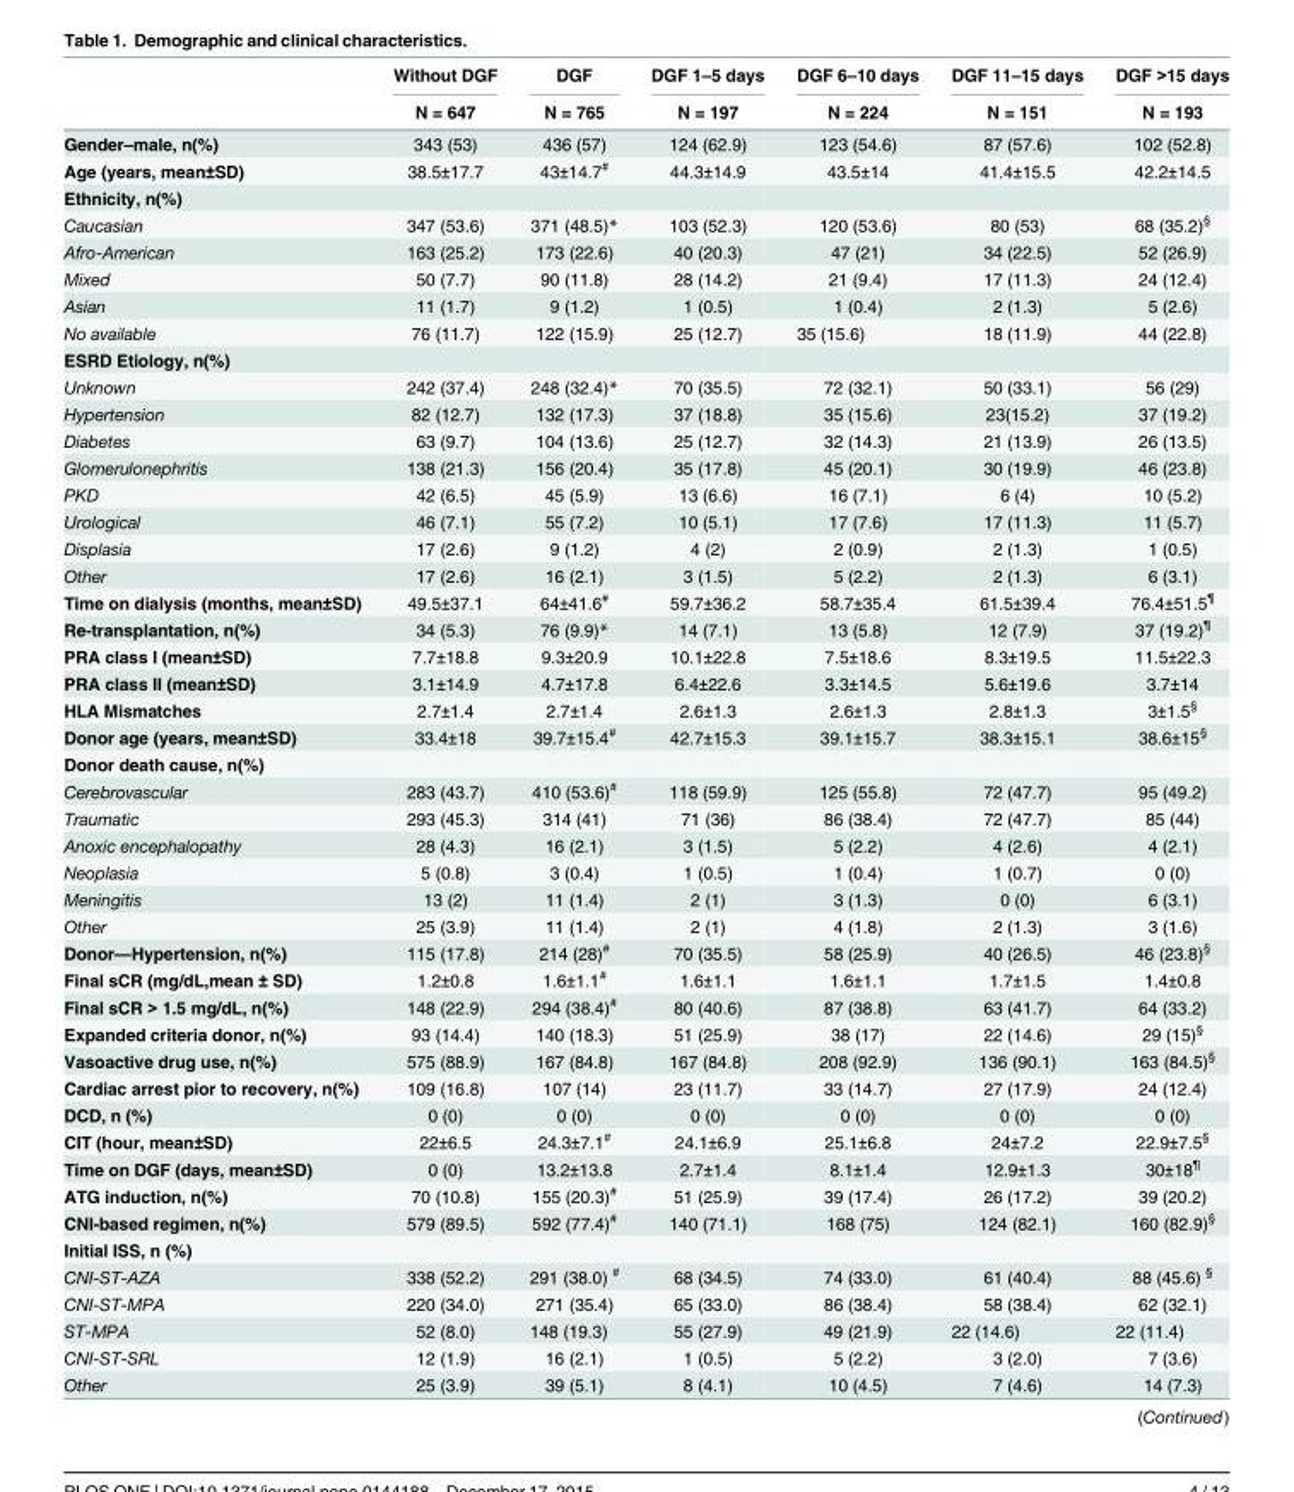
<table><thead><tr><td rowspan="2"></td><td rowspan="2">Without DGF N = 647</td><td rowspan="2">DGF N = 765</td><td rowspan="2">DGF 1–5 days N = 197</td><td rowspan="2">DGF 6–10 days N = 224</td><td rowspan="2">DGF 11–15 days N = 151</td><td rowspan="2">DGF &gt;15 days N = 193</td></tr><tr></tr></thead><tbody><tr><td>Gender–male, n(%)</td><td>343 (53)</td><td>436 (57)</td><td>124 (62.9)</td><td>123 (54.6)</td><td>87 (57.6)</td><td>102 (52.8)</td></tr><tr><td>Age (years, mean±SD)</td><td>38.5±17.7</td><td>43±14.7<sup>#</sup></td><td>44.3±14.9</td><td>43.5±14</td><td>41.4±15.5</td><td>42.2±14.5</td></tr><tr><td colspan="7">Ethnicity, n(%)</td></tr><tr><td>Caucasian</td><td>347 (53.6)</td><td>371 (48.5)*</td><td>103 (52.3)</td><td>120 (53.6)</td><td>80 (53)</td><td>68 (35.2)<sup>§</sup></td></tr><tr><td>Afro-American</td><td>163 (25.2)</td><td>173 (22.6)</td><td>40 (20.3)</td><td>47 (21)</td><td>34 (22.5)</td><td>52 (26.9)</td></tr><tr><td>Mixed</td><td>50 (7.7)</td><td>90 (11.8)</td><td>28 (14.2)</td><td>21 (9.4)</td><td>17 (11.3)</td><td>24 (12.4)</td></tr><tr><td>Asian</td><td>11 (1.7)</td><td>9 (1.2)</td><td>1 (0.5)</td><td>1 (0.4)</td><td>2 (1.3)</td><td>5 (2.6)</td></tr><tr><td>No available</td><td>76 (11.7)</td><td>122 (15.9)</td><td>25 (12.7)</td><td>35 (15.6)</td><td>18 (11.9)</td><td>44 (22.8)</td></tr><tr><td colspan="7">ESRD Etiology, n(%)</td></tr><tr><td>Unknown</td><td>242 (37.4)</td><td>248 (32.4)*</td><td>70 (35.5)</td><td>72 (32.1)</td><td>50 (33.1)</td><td>56 (29)</td></tr><tr><td>Hypertension</td><td>82 (12.7)</td><td>132 (17.3)</td><td>37 (18.8)</td><td>35 (15.6)</td><td>23(15.2)</td><td>37 (19.2)</td></tr><tr><td>Diabetes</td><td>63 (9.7)</td><td>104 (13.6)</td><td>25 (12.7)</td><td>32 (14.3)</td><td>21 (13.9)</td><td>26 (13.5)</td></tr><tr><td>Glomerulonephritis</td><td>138 (21.3)</td><td>156 (20.4)</td><td>35 (17.8)</td><td>45 (20.1)</td><td>30 (19.9)</td><td>46 (23.8)</td></tr><tr><td>PKD</td><td>42 (6.5)</td><td>45 (5.9)</td><td>13 (6.6)</td><td>16 (7.1)</td><td>6 (4)</td><td>10 (5.2)</td></tr><tr><td>Urological</td><td>46 (7.1)</td><td>55 (7.2)</td><td>10 (5.1)</td><td>17 (7.6)</td><td>17 (11.3)</td><td>11 (5.7)</td></tr><tr><td>Displasia</td><td>17 (2.6)</td><td>9 (1.2)</td><td>4 (2)</td><td>2 (0.9)</td><td>2 (1.3)</td><td>1 (0.5)</td></tr><tr><td>Other</td><td>17 (2.6)</td><td>16 (2.1)</td><td>3 (1.5)</td><td>5 (2.2)</td><td>2 (1.3)</td><td>6 (3.1)</td></tr><tr><td>Time on dialysis (months, mean±SD)</td><td>49.5±37.1</td><td>64±41.6<sup>#</sup></td><td>59.7±36.2</td><td>58.7±35.4</td><td>61.5±39.4</td><td>76.4±51.5<sup>¶</sup></td></tr><tr><td>Re-transplantation, n(%)</td><td>34 (5.3)</td><td>76 (9.9)*</td><td>14 (7.1)</td><td>13 (5.8)</td><td>12 (7.9)</td><td>37 (19.2)<sup>¶</sup></td></tr><tr><td>PRA class I (mean±SD)</td><td>7.7±18.8</td><td>9.3±20.9</td><td>10.1±22.8</td><td>7.5±18.6</td><td>8.3±19.5</td><td>11.5±22.3</td></tr><tr><td>PRA class II (mean±SD)</td><td>3.1±14.9</td><td>4.7±17.8</td><td>6.4±22.6</td><td>3.3±14.5</td><td>5.6±19.6</td><td>3.7±14</td></tr><tr><td>HLA Mismatches</td><td>2.7±1.4</td><td>2.7±1.4</td><td>2.6±1.3</td><td>2.6±1.3</td><td>2.8±1.3</td><td>3±1.5<sup>§</sup></td></tr><tr><td>Donor age (years, mean±SD)</td><td>33.4±18</td><td>39.7±15.4<sup>#</sup></td><td>42.7±15.3</td><td>39.1±15.7</td><td>38.3±15.1</td><td>38.6±15<sup>§</sup></td></tr><tr><td colspan="7">Donor death cause, n(%)</td></tr><tr><td>Cerebrovascular</td><td>283 (43.7)</td><td>410 (53.6)<sup>#</sup></td><td>118 (59.9)</td><td>125 (55.8)</td><td>72 (47.7)</td><td>95 (49.2)</td></tr><tr><td>Traumatic</td><td>293 (45.3)</td><td>314 (41)</td><td>71 (36)</td><td>86 (38.4)</td><td>72 (47.7)</td><td>85 (44)</td></tr><tr><td>Anoxic encephalopathy</td><td>28 (4.3)</td><td>16 (2.1)</td><td>3 (1.5)</td><td>5 (2.2)</td><td>4 (2.6)</td><td>4 (2.1)</td></tr><tr><td>Neoplasia</td><td>5 (0.8)</td><td>3 (0.4)</td><td>1 (0.5)</td><td>1 (0.4)</td><td>1 (0.7)</td><td>0 (0)</td></tr><tr><td>Meningitis</td><td>13 (2)</td><td>11 (1.4)</td><td>2 (1)</td><td>3 (1.3)</td><td>0 (0)</td><td>6 (3.1)</td></tr><tr><td>Other</td><td>25 (3.9)</td><td>11 (1.4)</td><td>2 (1)</td><td>4 (1.8)</td><td>2 (1.3)</td><td>3 (1.6)</td></tr><tr><td>Donor—Hypertension, n(%)</td><td>115 (17.8)</td><td>214 (28)<sup>#</sup></td><td>70 (35.5)</td><td>58 (25.9)</td><td>40 (26.5)</td><td>46 (23.8)<sup>§</sup></td></tr><tr><td>Final sCR (mg/dL,mean ± SD)</td><td>1.2±0.8</td><td>1.6±1.1<sup>#</sup></td><td>1.6±1.1</td><td>1.6±1.1</td><td>1.7±1.5</td><td>1.4±0.8</td></tr><tr><td>Final sCR &gt; 1.5 mg/dL, n(%)</td><td>148 (22.9)</td><td>294 (38.4)<sup>#</sup></td><td>80 (40.6)</td><td>87 (38.8)</td><td>63 (41.7)</td><td>64 (33.2)</td></tr><tr><td>Expanded criteria donor, n(%)</td><td>93 (14.4)</td><td>140 (18.3)</td><td>51 (25.9)</td><td>38 (17)</td><td>22 (14.6)</td><td>29 (15)<sup>§</sup></td></tr><tr><td>Vasoactive drug use, n(%)</td><td>575 (88.9)</td><td>167 (84.8)</td><td>167 (84.8)</td><td>208 (92.9)</td><td>136 (90.1)</td><td>163 (84.5)<sup>§</sup></td></tr><tr><td>Cardiac arrest pior to recovery, n(%)</td><td>109 (16.8)</td><td>107 (14)</td><td>23 (11.7)</td><td>33 (14.7)</td><td>27 (17.9)</td><td>24 (12.4)</td></tr><tr><td>DCD, n (%)</td><td>0 (0)</td><td>0 (0)</td><td>0 (0)</td><td>0 (0)</td><td>0 (0)</td><td>0 (0)</td></tr><tr><td>CIT (hour, mean±SD)</td><td>22±6.5</td><td>24.3±7.1<sup>#</sup></td><td>24.1±6.9</td><td>25.1±6.8</td><td>24±7.2</td><td>22.9±7.5<sup>§</sup></td></tr><tr><td>Time on DGF (days, mean±SD)</td><td>0 (0)</td><td>13.2±13.8</td><td>2.7±1.4</td><td>8.1±1.4</td><td>12.9±1.3</td><td>30±18<sup>¶</sup></td></tr><tr><td>ATG induction, n(%)</td><td>70 (10.8)</td><td>155 (20.3)<sup>#</sup></td><td>51 (25.9)</td><td>39 (17.4)</td><td>26 (17.2)</td><td>39 (20.2)</td></tr><tr><td>CNI-based regimen, n(%)</td><td>579 (89.5)</td><td>592 (77.4)<sup>#</sup></td><td>140 (71.1)</td><td>168 (75)</td><td>124 (82.1)</td><td>160 (82.9)<sup>§</sup></td></tr><tr><td colspan="7">Initial ISS, n (%)</td></tr><tr><td>CNI-ST-AZA</td><td>338 (52.2)</td><td>291 (38.0) <sup>#</sup></td><td>68 (34.5)</td><td>74 (33.0)</td><td>61 (40.4)</td><td>88 (45.6) <sup>§</sup></td></tr><tr><td>CNI-ST-MPA</td><td>220 (34.0)</td><td>271 (35.4)</td><td>65 (33.0)</td><td>86 (38.4)</td><td>58 (38.4)</td><td>62 (32.1)</td></tr><tr><td>ST-MPA</td><td>52 (8.0)</td><td>148 (19.3)</td><td>55 (27.9)</td><td>49 (21.9)</td><td>22 (14.6)</td><td>22 (11.4)</td></tr><tr><td>CNI-ST-SRL</td><td>12 (1.9)</td><td>16 (2.1)</td><td>1 (0.5)</td><td>5 (2.2)</td><td>3 (2.0)</td><td>7 (3.6)</td></tr><tr><td>Other</td><td>25 (3.9)</td><td>39 (5.1)</td><td>8 (4.1)</td><td>10 (4.5)</td><td>7 (4.6)</td><td>14 (7.3)</td></tr><tr><td></td><td></td><td></td><td></td><td></td><td></td><td>(Continued)</td></tr></tbody></table>